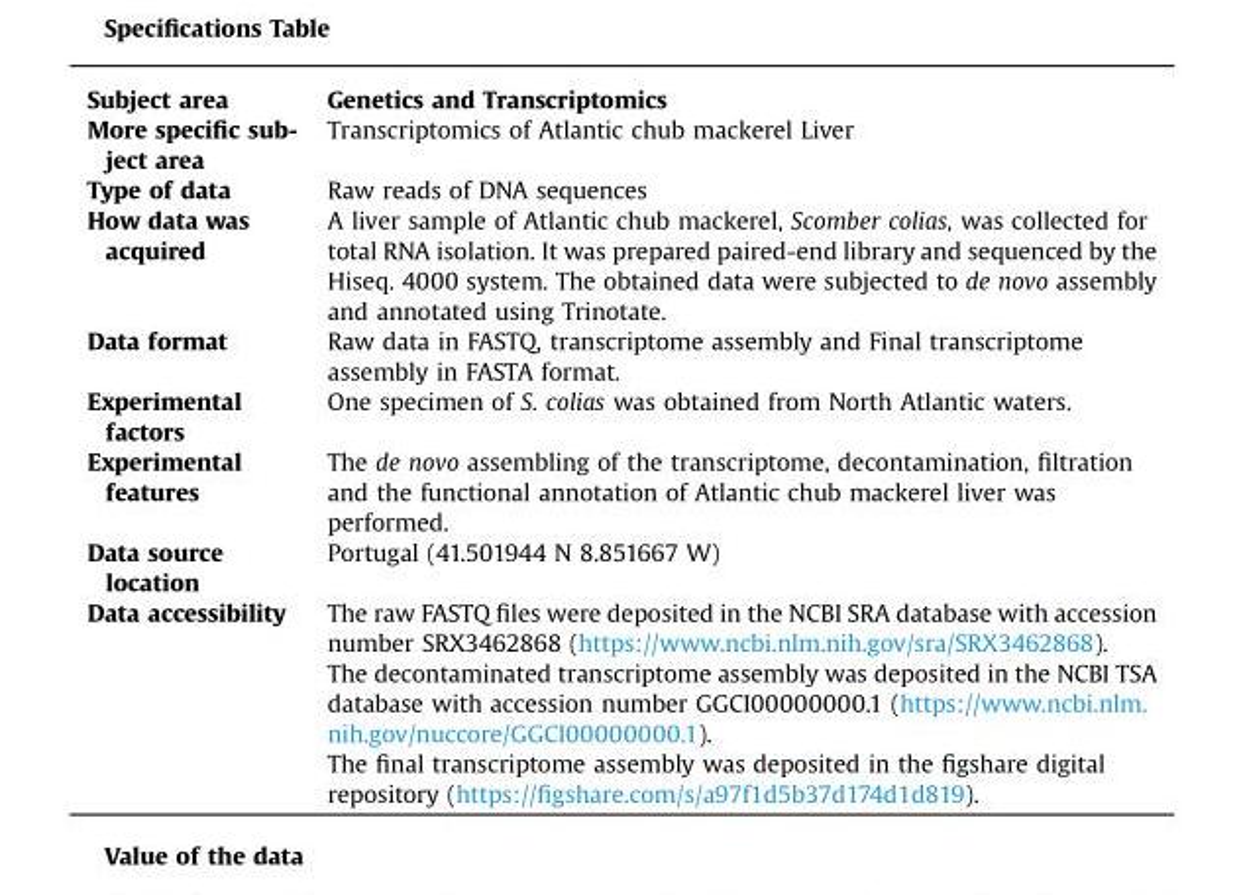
<table><tbody><tr><td>Subject area</td><td>Genetics and Transcriptomics</td></tr><tr><td>More specific sub- ject area</td><td>Transcriptomics of Atlantic chub mackerel Liver</td></tr><tr><td>Type of data</td><td>Raw reads of DNA sequences</td></tr><tr><td>How data was acquired</td><td>A liver sample of Atlantic chub mackerel, Scomber colias, was collected for total RNA isolation. It was prepared paired-end library and sequenced by the Hiseq. 4000 system. The obtained data were subjected to de novo assembly and annotated using Trinotate.</td></tr><tr><td>Data format</td><td>Raw data in FASTQ, transcriptome assembly and Final transcriptome assembly in FASTA format.</td></tr><tr><td>Experimental factors</td><td>One specimen of S. colias was obtained from North Atlantic waters.</td></tr><tr><td>Experimental features</td><td>The de novo assembling of the transcriptome, decontamination, filtration and the functional annotation of Atlantic chub mackerel liver was performed.</td></tr><tr><td>Data source location</td><td>Portugal (41.501944 N 8.851667 W)</td></tr><tr><td rowspan="3">Data accessibility</td><td>The raw FASTQ files were deposited in the NCBI SRA database with accession number SRX3462868 (https://www.ncbi.nlm.nih.gov/sra/SRX3462868).</td></tr><tr><td>The decontaminated transcriptome assembly was deposited in the NCBI TSA database with accession number GGCI00000000.1 (https://www.ncbi.nlm. nih.gov/nuccore/GGCI00000000.1).</td></tr><tr><td>The final transcriptome assembly was deposited in the figshare digital repository (https://figshare.com/s/a97f1d5b37d174d1d819).</td></tr></tbody></table>